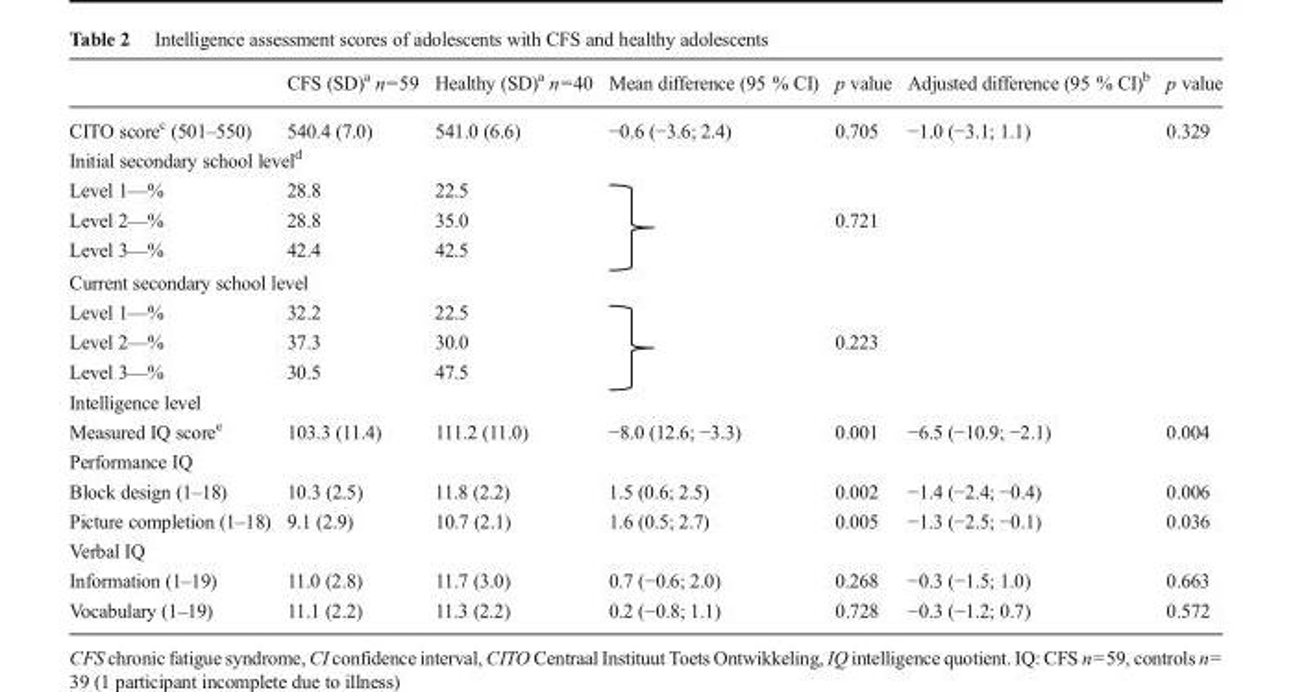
<table><thead><tr><td></td><td>CFS (SD)<sup>a</sup> n=59</td><td>Healthy (SD)<sup>a</sup> n=40</td><td>Mean difference (95 % CI)</td><td>p value</td><td>Adjusted difference (95 % CI)<sup>b</sup></td><td>p value</td></tr></thead><tbody><tr><td>CITO score<sup>c</sup> (501–550)</td><td>540.4 (7.0)</td><td>541.0 (6.6)</td><td>−0.6 (−3.6; 2.4)</td><td>0.705</td><td>−1.0 (−3.1; 1.1)</td><td>0.329</td></tr><tr><td colspan="7">Initial secondary school level<sup>d</sup></td></tr><tr><td>Level 1—%</td><td>28.8</td><td>22.5</td><td rowspan="3"></td><td></td><td></td><td></td></tr><tr><td>Level 2—%</td><td>28.8</td><td>35.0</td><td>0.721</td><td></td><td></td></tr><tr><td>Level 3—%</td><td>42.4</td><td>42.5</td><td></td><td></td><td></td></tr><tr><td colspan="7">Current secondary school level</td></tr><tr><td>Level 1—%</td><td>32.2</td><td>22.5</td><td rowspan="3"></td><td></td><td></td><td></td></tr><tr><td>Level 2—%</td><td>37.3</td><td>30.0</td><td>0.223</td><td></td><td></td></tr><tr><td>Level 3—%</td><td>30.5</td><td>47.5</td><td></td><td></td><td></td></tr><tr><td colspan="7">Intelligence level</td></tr><tr><td>Measured IQ score<sup>e</sup></td><td>103.3 (11.4)</td><td>111.2 (11.0)</td><td>−8.0 (12.6; −3.3)</td><td>0.001</td><td>−6.5 (−10.9; −2.1)</td><td>0.004</td></tr><tr><td colspan="7">Performance IQ</td></tr><tr><td>Block design (1–18)</td><td>10.3 (2.5)</td><td>11.8 (2.2)</td><td>1.5 (0.6; 2.5)</td><td>0.002</td><td>−1.4 (−2.4; −0.4)</td><td>0.006</td></tr><tr><td>Picture completion (1–18)</td><td>9.1 (2.9)</td><td>10.7 (2.1)</td><td>1.6 (0.5; 2.7)</td><td>0.005</td><td>−1.3 (−2.5; −0.1)</td><td>0.036</td></tr><tr><td colspan="7">Verbal IQ</td></tr><tr><td>Information (1–19)</td><td>11.0 (2.8)</td><td>11.7 (3.0)</td><td>0.7 (−0.6; 2.0)</td><td>0.268</td><td>−0.3 (−1.5; 1.0)</td><td>0.663</td></tr><tr><td>Vocabulary (1–19)</td><td>11.1 (2.2)</td><td>11.3 (2.2)</td><td>0.2 (−0.8; 1.1)</td><td>0.728</td><td>−0.3 (−1.2; 0.7)</td><td>0.572</td></tr></tbody></table>